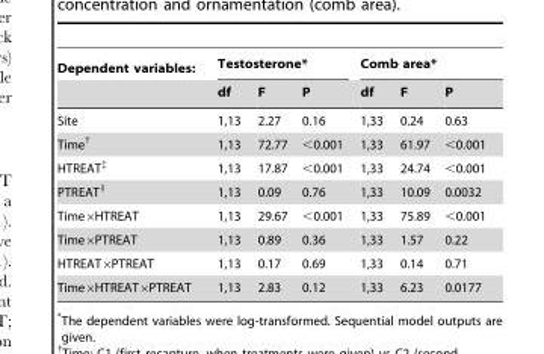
<table><thead><tr><td rowspan="2">Dependent variables:</td><td colspan="3">Testosterone*</td><td colspan="3">Comb area*</td></tr><tr><td>df</td><td>F</td><td>P</td><td>df</td><td>F</td><td>P</td></tr></thead><tbody><tr><td>Site</td><td>1,13</td><td>2.27</td><td>0.16</td><td>1,33</td><td>0.24</td><td>0.63</td></tr><tr><td>Time†</td><td>1,13</td><td>72.77</td><td>&lt;0.001</td><td>1,33</td><td>61.97</td><td>&lt;0.001</td></tr><tr><td>HTREAT‡</td><td>1,13</td><td>17.87</td><td>&lt;0.001</td><td>1,33</td><td>24.74</td><td>&lt;0.001</td></tr><tr><td>PTREAT∥</td><td>1,13</td><td>0.09</td><td>0.76</td><td>1,33</td><td>10.09</td><td>0.0032</td></tr><tr><td>Time×HTREAT</td><td>1,13</td><td>29.67</td><td>&lt;0.001</td><td>1,33</td><td>75.89</td><td>&lt;0.001</td></tr><tr><td>Time×PTREAT</td><td>1,13</td><td>0.89</td><td>0.36</td><td>1,33</td><td>1.57</td><td>0.22</td></tr><tr><td>HTREAT×PTREAT</td><td>1,13</td><td>0.17</td><td>0.69</td><td>1,33</td><td>0.14</td><td>0.71</td></tr><tr><td>Time×HTREAT×PTREAT</td><td>1,13</td><td>2.83</td><td>0.12</td><td>1,33</td><td>6.23</td><td>0.0177</td></tr></tbody></table>